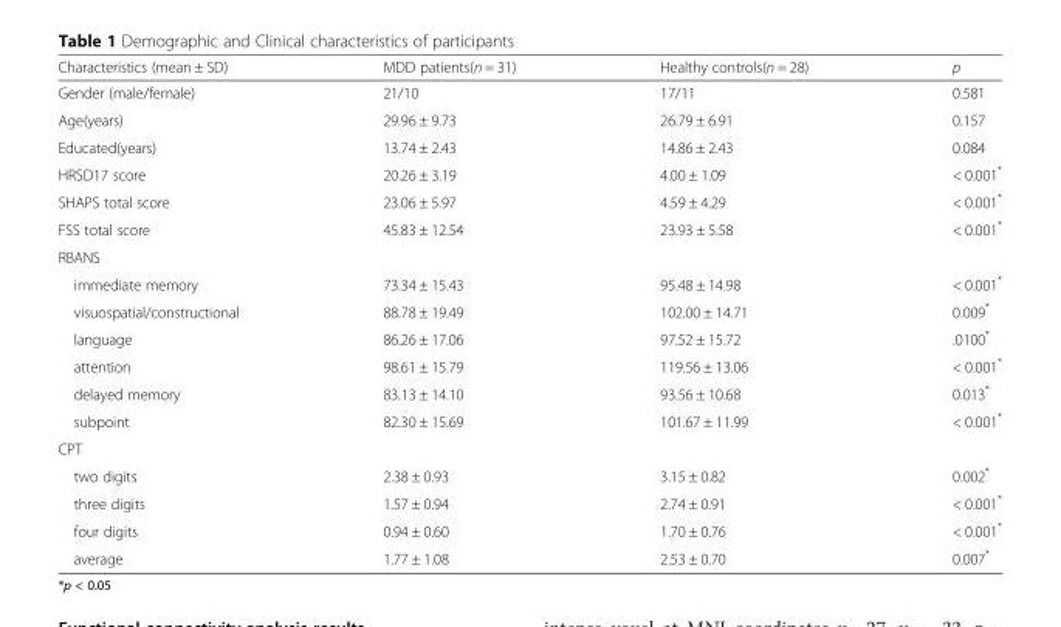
<table><thead><tr><td>Characteristics (mean ± SD)</td><td>MDD patients(n = 31)</td><td>Healthy controls(n = 28)</td><td>p</td></tr></thead><tbody><tr><td>Gender (male/female)</td><td>21/10</td><td>17/11</td><td>0.581</td></tr><tr><td>Age(years)</td><td>29.96 ± 9.73</td><td>26.79 ± 6.91</td><td>0.157</td></tr><tr><td>Educated(years)</td><td>13.74 ± 2.43</td><td>14.86 ± 2.43</td><td>0.084</td></tr><tr><td>HRSD17 score</td><td>20.26 ± 3.19</td><td>4.00 ± 1.09</td><td>&lt; 0.001*</td></tr><tr><td>SHAPS total score</td><td>23.06 ± 5.97</td><td>4.59 ± 4.29</td><td>&lt; 0.001*</td></tr><tr><td>FSS total score</td><td>45.83 ± 12.54</td><td>23.93 ± 5.58</td><td>&lt; 0.001*</td></tr><tr><td colspan="4">RBANS</td></tr><tr><td>immediate memory</td><td>73.34 ± 15.43</td><td>95.48 ± 14.98</td><td>&lt; 0.001*</td></tr><tr><td>visuospatial/constructional</td><td>88.78 ± 19.49</td><td>102.00 ± 14.71</td><td>0.009*</td></tr><tr><td>language</td><td>86.26 ± 17.06</td><td>97.52 ± 15.72</td><td>.0100*</td></tr><tr><td>attention</td><td>98.61 ± 15.79</td><td>119.56 ± 13.06</td><td>&lt; 0.001*</td></tr><tr><td>delayed memory</td><td>83.13 ± 14.10</td><td>93.56 ± 10.68</td><td>0.013*</td></tr><tr><td>subpoint</td><td>82.30 ± 15.69</td><td>101.67 ± 11.99</td><td>&lt; 0.001*</td></tr><tr><td colspan="4">CPT</td></tr><tr><td>two digits</td><td>2.38 ± 0.93</td><td>3.15 ± 0.82</td><td>0.002*</td></tr><tr><td>three digits</td><td>1.57 ± 0.94</td><td>2.74 ± 0.91</td><td>&lt; 0.001*</td></tr><tr><td>four digits</td><td>0.94 ± 0.60</td><td>1.70 ± 0.76</td><td>&lt; 0.001*</td></tr><tr><td>average</td><td>1.77 ± 1.08</td><td>2.53 ± 0.70</td><td>0.007*</td></tr></tbody></table>